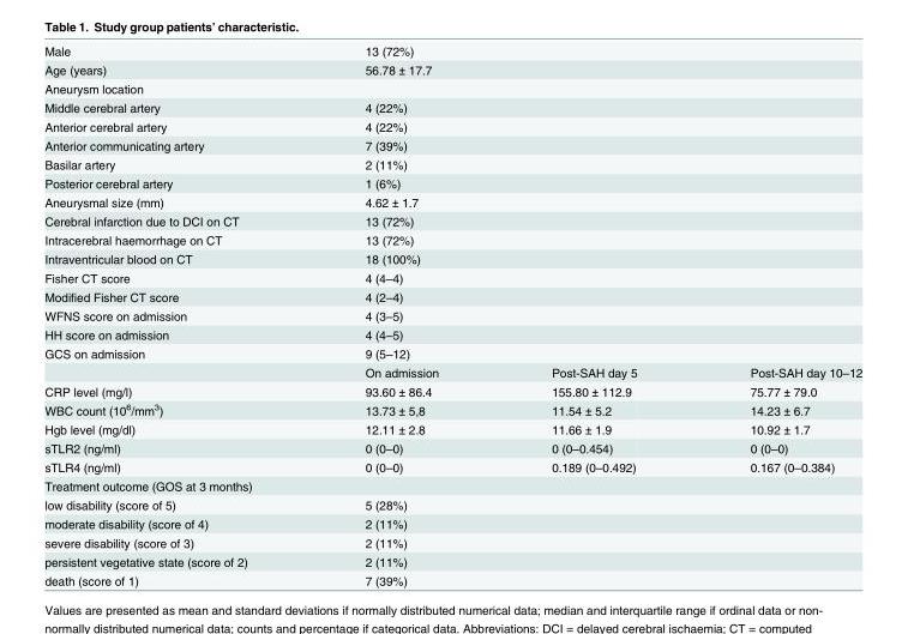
<table><tbody><tr><td>Male</td><td colspan="3">13 (72%)</td></tr><tr><td>Age (years)</td><td colspan="3">56.78 ± 17.7</td></tr><tr><td colspan="4">Aneurysm location</td></tr><tr><td>Middle cerebral artery</td><td colspan="3">4 (22%)</td></tr><tr><td>Anterior cerebral artery</td><td colspan="3">4 (22%)</td></tr><tr><td>Anterior communicating artery</td><td colspan="3">7 (39%)</td></tr><tr><td>Basilar artery</td><td colspan="3">2 (11%)</td></tr><tr><td>Posterior cerebral artery</td><td colspan="3">1 (6%)</td></tr><tr><td>Aneurysmal size (mm)</td><td colspan="3">4.62 ± 1.7</td></tr><tr><td>Cerebral infarction due to DCI on CT</td><td colspan="3">13 (72%)</td></tr><tr><td>Intracerebral haemorrhage on CT</td><td colspan="3">13 (72%)</td></tr><tr><td>Intraventricular blood on CT</td><td colspan="3">18 (100%)</td></tr><tr><td>Fisher CT score</td><td colspan="3">4 (4–4)</td></tr><tr><td>Modified Fisher CT score</td><td colspan="3">4 (2–4)</td></tr><tr><td>WFNS score on admission</td><td colspan="3">4 (3–5)</td></tr><tr><td>HH score on admission</td><td colspan="3">4 (4–5)</td></tr><tr><td rowspan="2">GCS on admission</td><td colspan="3">9 (5–12)</td></tr><tr><td>On admission</td><td>Post-SAH day 5</td><td>Post-SAH day 10–12</td></tr><tr><td>CRP level (mg/l)</td><td>93.60 ± 86.4</td><td>155.80 ± 112.9</td><td>75.77 ± 79.0</td></tr><tr><td>WBC count (10<sup>6</sup>/mm<sup>3</sup>)</td><td>13.73 ± 5,8</td><td>11.54 ± 5.2</td><td>14.23 ± 6.7</td></tr><tr><td>Hgb level (mg/dl)</td><td>12.11 ± 2.8</td><td>11.66 ± 1.9</td><td>10.92 ± 1.7</td></tr><tr><td>sTLR2 (ng/ml)</td><td>0 (0–0)</td><td>0 (0–0.454)</td><td>0 (0–0)</td></tr><tr><td>sTLR4 (ng/ml)</td><td>0 (0–0)</td><td>0.189 (0–0.492)</td><td>0.167 (0–0.384)</td></tr><tr><td colspan="4">Treatment outcome (GOS at 3 months)</td></tr><tr><td>low disability (score of 5)</td><td colspan="3">5 (28%)</td></tr><tr><td>moderate disability (score of 4)</td><td colspan="3">2 (11%)</td></tr><tr><td>severe disability (score of 3)</td><td colspan="3">2 (11%)</td></tr><tr><td>persistent vegetative state (score of 2)</td><td colspan="3">2 (11%)</td></tr><tr><td>death (score of 1)</td><td colspan="3">7 (39%)</td></tr></tbody></table>